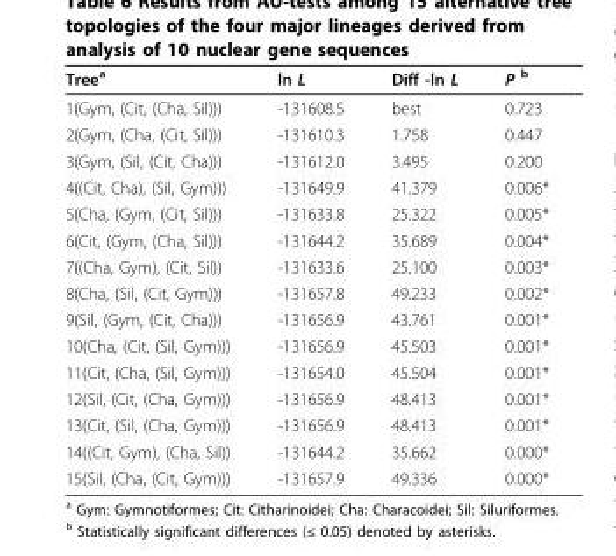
<table><thead><tr><td>Tree<sup>a</sup></td><td>ln L</td><td>Diff -ln L</td><td>P <sup>b</sup></td></tr></thead><tbody><tr><td>1(Gym, (Cit, (Cha, Sil)))</td><td>-131608.5</td><td>best</td><td>0.723</td></tr><tr><td>2(Gym, (Cha, (Cit, Sil)))</td><td>-131610.3</td><td>1.758</td><td>0.447</td></tr><tr><td>3(Gym, (Sil, (Cit, Cha)))</td><td>-131612.0</td><td>3.495</td><td>0.200</td></tr><tr><td>4((Cit, Cha), (Sil, Gym)))</td><td>-131649.9</td><td>41.379</td><td>0.006*</td></tr><tr><td>5(Cha, (Gym, (Cit, Sil)))</td><td>-131633.8</td><td>25.322</td><td>0.005*</td></tr><tr><td>6(Cit, (Gym, (Cha, Sil)))</td><td>-131644.2</td><td>35.689</td><td>0.004*</td></tr><tr><td>7((Cha, Gym), (Cit, Sil))</td><td>-131633.6</td><td>25.100</td><td>0.003*</td></tr><tr><td>8(Cha, (Sil, (Cit, Gym)))</td><td>-131657.8</td><td>49.233</td><td>0.002*</td></tr><tr><td>9(Sil, (Gym, (Cit, Cha)))</td><td>-131656.9</td><td>43.761</td><td>0.001*</td></tr><tr><td>10(Cha, (Cit, (Sil, Gym)))</td><td>-131656.9</td><td>45.503</td><td>0.001*</td></tr><tr><td>11(Cit, (Cha, (Sil, Gym)))</td><td>-131654.0</td><td>45.504</td><td>0.001*</td></tr><tr><td>12(Sil, (Cit, (Cha, Gym)))</td><td>-131656.9</td><td>48.413</td><td>0.001*</td></tr><tr><td>13(Cit, (Sil, (Cha, Gym)))</td><td>-131656.9</td><td>48.413</td><td>0.001*</td></tr><tr><td>14((Cit, Gym), (Cha, Sil))</td><td>-131644.2</td><td>35.662</td><td>0.000*</td></tr><tr><td>15(Sil, (Cha, (Cit, Gym)))</td><td>-131657.9</td><td>49.336</td><td>0.000*</td></tr></tbody></table>